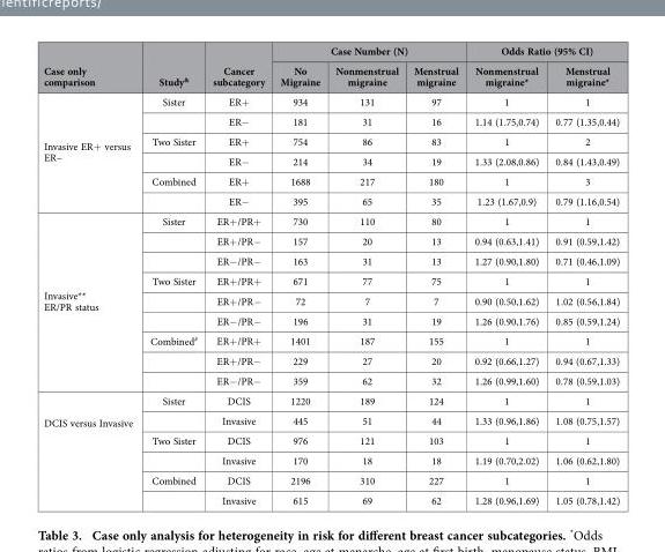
<table><thead><tr><td rowspan="2">Case only comparison</td><td rowspan="2">Study&amp;</td><td rowspan="2">Cancer subcategory</td><td colspan="3">Case Number (N)</td><td colspan="2">Odds Ratio (95% CI)</td></tr><tr><td>No Migraine</td><td>Nonmenstrual migraine</td><td>Menstrual migraine</td><td>Nonmenstrual migraine*</td><td>Menstrual migraine*</td></tr></thead><tbody><tr><td rowspan="6">Invasive ER+ versus ER−</td><td>Sister</td><td>ER+</td><td>934</td><td>131</td><td>97</td><td>1</td><td>1</td></tr><tr><td></td><td>ER−</td><td>181</td><td>31</td><td>16</td><td>1.14 (1.75,0.74)</td><td>0.77 (1.35,0.44)</td></tr><tr><td>Two Sister</td><td>ER+</td><td>754</td><td>86</td><td>83</td><td>1</td><td>2</td></tr><tr><td></td><td>ER−</td><td>214</td><td>34</td><td>19</td><td>1.33 (2.08,0.86)</td><td>0.84 (1.43,0.49)</td></tr><tr><td>Combined</td><td>ER+</td><td>1688</td><td>217</td><td>180</td><td>1</td><td>3</td></tr><tr><td></td><td>ER−</td><td>395</td><td>65</td><td>35</td><td>1.23 (1.67,0.9)</td><td>0.79 (1.16,0.54)</td></tr><tr><td rowspan="9">Invasive** ER/PR status</td><td>Sister</td><td>ER+ /PR+</td><td>730</td><td>110</td><td>80</td><td>1</td><td>1</td></tr><tr><td></td><td>ER+ /PR−</td><td>157</td><td>20</td><td>13</td><td>0.94 (0.63,1.41)</td><td>0.91 (0.59,1.42)</td></tr><tr><td></td><td>ER− /PR−</td><td>163</td><td>31</td><td>13</td><td>1.27 (0.90,1.80)</td><td>0.71 (0.46,1.09)</td></tr><tr><td>Two Sister</td><td>ER+ /PR+</td><td>671</td><td>77</td><td>75</td><td>1</td><td>1</td></tr><tr><td></td><td>ER+ /PR−</td><td>72</td><td>7</td><td>7</td><td>0.90 (0.50,1.62)</td><td>1.02 (0.56,1.84)</td></tr><tr><td></td><td>ER− /PR−</td><td>196</td><td>31</td><td>19</td><td>1.26 (0.90,1.76)</td><td>0.85 (0.59,1.24)</td></tr><tr><td>Combined#</td><td>ER+ /PR+</td><td>1401</td><td>187</td><td>155</td><td>1</td><td>1</td></tr><tr><td></td><td>ER+ /PR−</td><td>229</td><td>27</td><td>20</td><td>0.92 (0.66,1.27)</td><td>0.94 (0.67,1.33)</td></tr><tr><td></td><td>ER− /PR−</td><td>359</td><td>62</td><td>32</td><td>1.26 (0.99,1.60)</td><td>0.78 (0.59,1.03)</td></tr><tr><td rowspan="6">DCIS versus Invasive</td><td>Sister</td><td>DCIS</td><td>1220</td><td>189</td><td>124</td><td>1</td><td>1</td></tr><tr><td></td><td>Invasive</td><td>445</td><td>51</td><td>44</td><td>1.33 (0.96,1.86)</td><td>1.08 (0.75,1.57)</td></tr><tr><td>Two Sister</td><td>DCIS</td><td>976</td><td>121</td><td>103</td><td>1</td><td>1</td></tr><tr><td></td><td>Invasive</td><td>170</td><td>18</td><td>18</td><td>1.19 (0.70,2.02)</td><td>1.06 (0.62,1.80)</td></tr><tr><td>Combined</td><td>DCIS</td><td>2196</td><td>310</td><td>227</td><td>1</td><td>1</td></tr><tr><td></td><td>Invasive</td><td>615</td><td>69</td><td>62</td><td>1.28 (0.96,1.69)</td><td>1.05 (0.78,1.42)</td></tr></tbody></table>